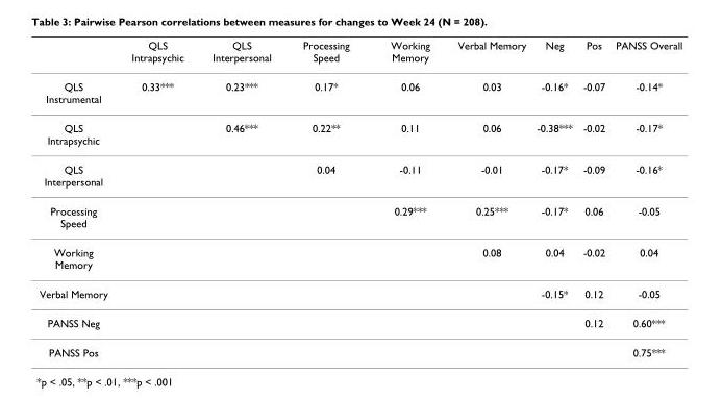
<table><thead><tr><td></td><td>QLS Intrapsychic</td><td>QLS Interpersonal</td><td>Processing Speed</td><td>Working Memory</td><td>Verbal Memory</td><td>Neg</td><td>Pos</td><td>PANSS Overall</td></tr></thead><tbody><tr><td>QLS Instrumental</td><td>0.33***</td><td>0.23***</td><td>0.17*</td><td>0.06</td><td>0.03</td><td>-0.16*</td><td>-0.07</td><td>-0.14*</td></tr><tr><td>QLS Intrapsychic</td><td></td><td>0.46***</td><td>0.22**</td><td>0.11</td><td>0.06</td><td>-0.38***</td><td>-0.02</td><td>-0.17*</td></tr><tr><td>QLS Interpersonal</td><td></td><td></td><td>0.04</td><td>-0.11</td><td>-0.01</td><td>-0.17*</td><td>-0.09</td><td>-0.16*</td></tr><tr><td>Processing Speed</td><td></td><td></td><td></td><td>0.29***</td><td>0.25***</td><td>-0.17*</td><td>0.06</td><td>-0.05</td></tr><tr><td>Working Memory</td><td></td><td></td><td></td><td></td><td>0.08</td><td>0.04</td><td>-0.02</td><td>0.04</td></tr><tr><td>Verbal Memory</td><td></td><td></td><td></td><td></td><td></td><td>-0.15*</td><td>0.12</td><td>-0.05</td></tr><tr><td>PANSS Neg</td><td></td><td></td><td></td><td></td><td></td><td></td><td>0.12</td><td>0.60***</td></tr><tr><td>PANSS Pos</td><td></td><td></td><td></td><td></td><td></td><td></td><td></td><td>0.75***</td></tr></tbody></table>